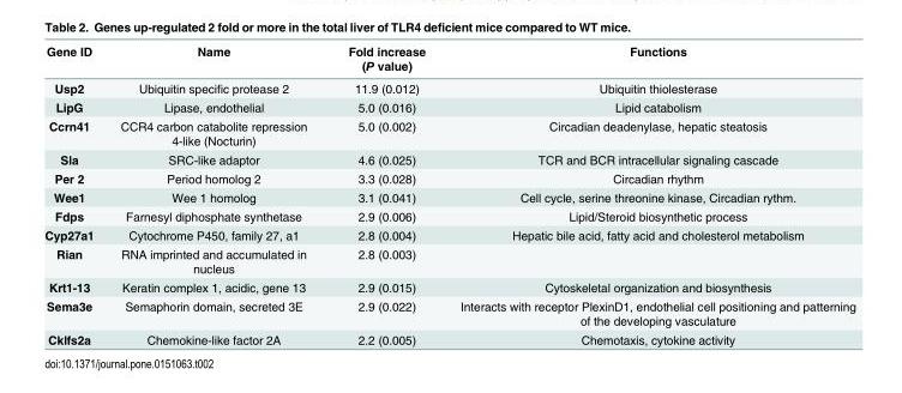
<table><thead><tr><td>Gene ID</td><td>Name</td><td>Fold increase (P value)</td><td>Functions</td></tr></thead><tbody><tr><td>Usp2</td><td>Ubiquitin specific protease 2</td><td>11.9 (0.012)</td><td>Ubiquitin thiolesterase</td></tr><tr><td>LipG</td><td>Lipase, endothelial</td><td>5.0 (0.016)</td><td>Lipid catabolism</td></tr><tr><td>Ccrn41</td><td>CCR4 carbon catabolite repression 4-like (Nocturin)</td><td>5.0 (0.002)</td><td>Circadian deadenylase, hepatic steatosis</td></tr><tr><td>Sla</td><td>SRC-like adaptor</td><td>4.6 (0.025)</td><td>TCR and BCR intracellular signaling cascade</td></tr><tr><td>Per 2</td><td>Period homolog 2</td><td>3.3 (0.028)</td><td>Circadian rhythm</td></tr><tr><td>Wee1</td><td>Wee 1 homolog</td><td>3.1 (0.041)</td><td>Cell cycle, serine threonine kinase, Circadian rythm.</td></tr><tr><td>Fdps</td><td>Farnesyl diphosphate synthetase</td><td>2.9 (0.006)</td><td>Lipid/Steroid biosynthetic process</td></tr><tr><td>Cyp27a1</td><td>Cytochrome P450, family 27, a1</td><td>2.8 (0.004)</td><td>Hepatic bile acid, fatty acid and cholesterol metabolism</td></tr><tr><td>Rian</td><td>RNA imprinted and accumulated in nucleus</td><td>2.8 (0.003)</td><td></td></tr><tr><td>Krt1-13</td><td>Keratin complex 1, acidic, gene 13</td><td>2.9 (0.015)</td><td>Cytoskeletal organization and biosynthesis</td></tr><tr><td>Sema3e</td><td>Semaphorin domain, secreted 3E</td><td>2.9 (0.022)</td><td>Interacts with receptor PlexinD1, endothelial cell positioning and patterning of the developing vasculature</td></tr><tr><td>Cklfs2a</td><td>Chemokine-like factor 2A</td><td>2.2 (0.005)</td><td>Chemotaxis, cytokine activity</td></tr></tbody></table>